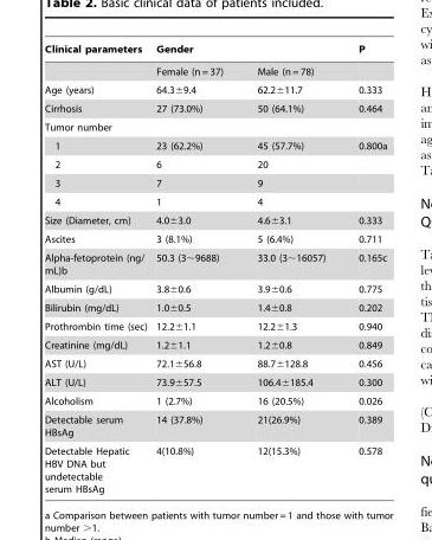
<table><thead><tr><td rowspan="2">Clinical parameters</td><td colspan="2">Gender</td><td rowspan="2">P</td></tr><tr><td>Female (n = 37)</td><td>Male (n = 78)</td></tr></thead><tbody><tr><td>Age (years)</td><td>64.3±9.4</td><td>62.2±11.7</td><td>0.333</td></tr><tr><td>Cirrhosis</td><td>27 (73.0%)</td><td>50 (64.1%)</td><td>0.464</td></tr><tr><td colspan="4">Tumor number</td></tr><tr><td>1</td><td>23 (62.2%)</td><td>45 (57.7%)</td><td>0.800a</td></tr><tr><td>2</td><td>6</td><td>20</td><td></td></tr><tr><td>3</td><td>7</td><td>9</td><td></td></tr><tr><td>4</td><td>1</td><td>4</td><td></td></tr><tr><td>Size (Diameter, cm)</td><td>4.0±3.0</td><td>4.6±3.1</td><td>0.333</td></tr><tr><td>Ascites</td><td>3 (8.1%)</td><td>5 (6.4%)</td><td>0.711</td></tr><tr><td>Alpha-fetoprotein (ng/ mL)b</td><td>50.3 (3∼9688)</td><td>33.0 (3∼16057)</td><td>0.165c</td></tr><tr><td>Albumin (g/dL)</td><td>3.8±0.6</td><td>3.9±0.6</td><td>0.775</td></tr><tr><td>Bilirubin (mg/dL)</td><td>1.0±0.5</td><td>1.4±0.8</td><td>0.202</td></tr><tr><td>Prothrombin time (sec)</td><td>12.2±1.1</td><td>12.2±1.3</td><td>0.940</td></tr><tr><td>Creatinine (mg/dL)</td><td>1.2±1.1</td><td>1.2±0.8</td><td>0.849</td></tr><tr><td>AST (U/L)</td><td>72.1±56.8</td><td>88.7±128.8</td><td>0.456</td></tr><tr><td>ALT (U/L)</td><td>73.9±57.5</td><td>106.4±185.4</td><td>0.300</td></tr><tr><td>Alcoholism</td><td>1 (2.7%)</td><td>16 (20.5%)</td><td>0.026</td></tr><tr><td>Detectable serum HBsAg</td><td>14 (37.8%)</td><td>21(26.9%)</td><td>0.389</td></tr><tr><td>Detectable Hepatic HBV DNA but undetectable serum HBsAg</td><td>4(10.8%)</td><td>12(15.3%)</td><td>0.578</td></tr></tbody></table>